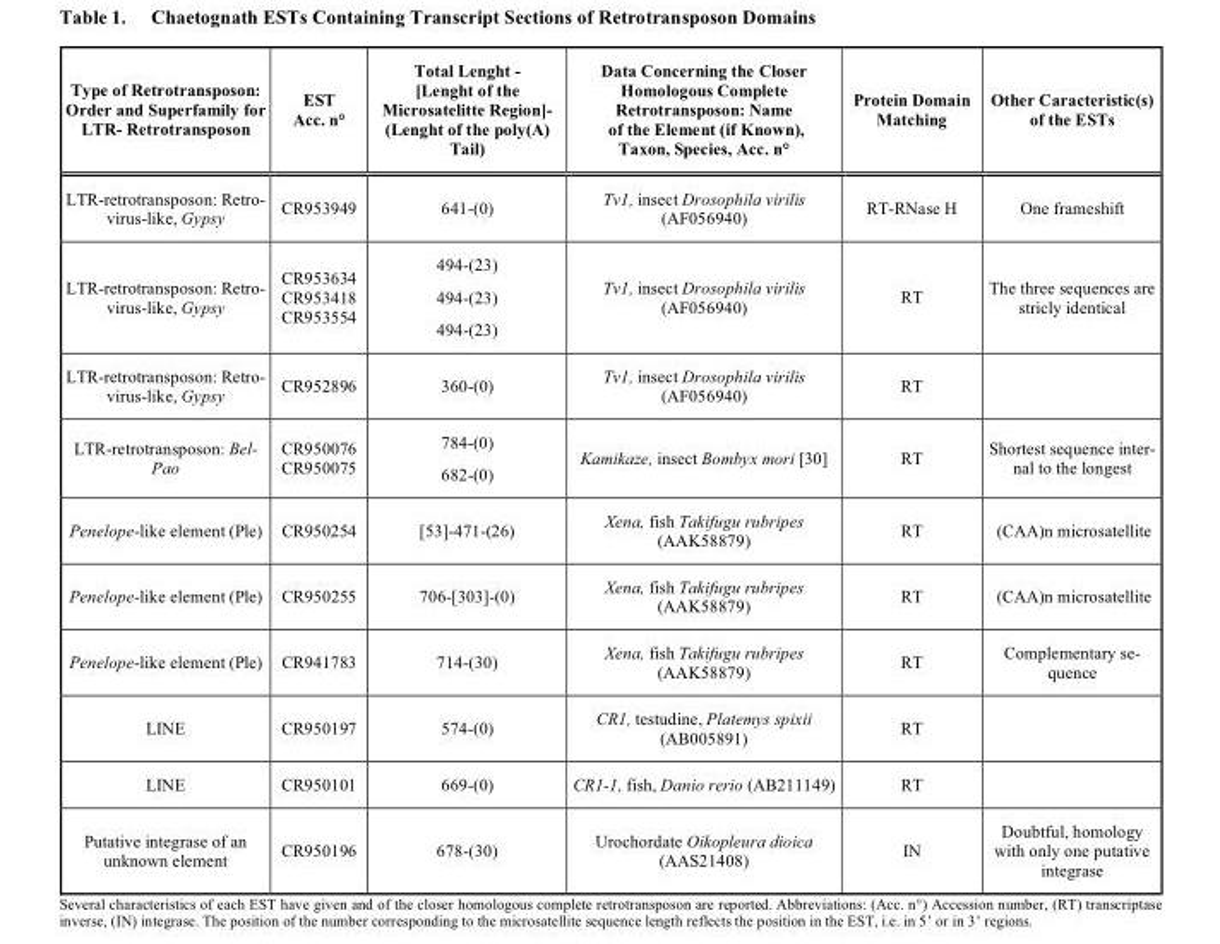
<table><thead><tr><td>Type of Retrotransposon: Order and Superfamily for LTR- Retrotransposon</td><td>EST Acc. n°</td><td>Total Lenght - [Lenght of the Microsatelitte Region]- (Lenght of the poly(A) Tail)</td><td>Data Concerning the Closer Homologous Complete Retrotransposon: Name of the Element (if Known), Taxon, Species, Acc. n°</td><td>Protein Domain Matching</td><td>Other Caracteristic(s) of the ESTs</td></tr></thead><tbody><tr><td>LTR-retrotransposon: Retro- virus-like, Gypsy</td><td>CR953949</td><td>641-(0)</td><td>Tv1, insect Drosophila virilis (AF056940)</td><td>RT-RNase H</td><td>One frameshift</td></tr><tr><td>LTR-retrotransposon: Retro- virus-like, Gypsy</td><td>CR953634 CR953418 CR953554</td><td>494-(23) 494-(23) 494-(23)</td><td>Tv1, insect Drosophila virilis (AF056940)</td><td>RT</td><td>The three sequences are stricly identical</td></tr><tr><td>LTR-retrotransposon: Retro- virus-like, Gypsy</td><td>CR952896</td><td>360-(0)</td><td>Tv1, insect Drosophila virilis (AF056940)</td><td>RT</td><td></td></tr><tr><td>LTR-retrotransposon: Bel- Pao</td><td>CR950076 CR950075</td><td>784-(0) 682-(0)</td><td>Kamikaze, insect Bombyx mori [30]</td><td>RT</td><td>Shortest sequence inter- nal to the longest</td></tr><tr><td>Penelope-like element (Ple)</td><td>CR950254</td><td>[53]-471-(26)</td><td>Xena, fish Takifugu rubripes (AAK58879)</td><td>RT</td><td>(CAA)n microsatellite</td></tr><tr><td>Penelope-like element (Ple)</td><td>CR950255</td><td>706-[303]-(0)</td><td>Xena, fish Takifugu rubripes (AAK58879)</td><td>RT</td><td>(CAA)n microsatellite</td></tr><tr><td>Penelope-like element (Ple)</td><td>CR941783</td><td>714-(30)</td><td>Xena, fish Takifugu rubripes (AAK58879)</td><td>RT</td><td>Complementary se- quence</td></tr><tr><td>LINE</td><td>CR950197</td><td>574-(0)</td><td>CR1, testudine, Platemys spixii (AB005891)</td><td>RT</td><td></td></tr><tr><td>LINE</td><td>CR950101</td><td>669-(0)</td><td>CR1-1, fish, Danio rerio (AB211149)</td><td>RT</td><td></td></tr><tr><td>Putative integrase of an unknown element</td><td>CR950196</td><td>678-(30)</td><td>Urochordate Oikopleura dioica (AAS21408)</td><td>IN</td><td>Doubtful, homology with only one putative integrase</td></tr></tbody></table>